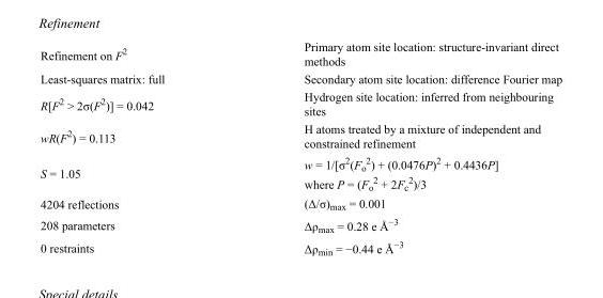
<table><tbody><tr><td>Refinement on F<sup>2</sup></td><td>Primary atom site location: structure-invariant direct methods</td></tr><tr><td>Least-squares matrix: full</td><td>Secondary atom site location: difference Fourier map</td></tr><tr><td>R[F<sup>2</sup> &gt; 2σ(F<sup>2</sup>)] = 0.042</td><td>Hydrogen site location: inferred from neighbouring sites</td></tr><tr><td>wR(F<sup>2</sup>) = 0.113</td><td>H atoms treated by a mixture of independent and constrained refinement</td></tr><tr><td>S = 1.05</td><td>w = 1/[σ<sup>2</sup>(F<sub>o</sub> <sup>2</sup>) + (0.0476P)<sup>2</sup> + 0.4436P] where P = (F<sub>o</sub> <sup>2</sup> + 2F<sub>c</sub> <sup>2</sup>)/3</td></tr><tr><td>4204 reflections</td><td>(Δ/σ)<sub>max</sub> = 0.001</td></tr><tr><td>208 parameters</td><td>Δρ<sub>max</sub> = 0.28 e Å<sup>−3</sup></td></tr><tr><td>0 restraints</td><td>Δρ<sub>min</sub> = −0.44 e Å<sup>−3</sup></td></tr></tbody></table>